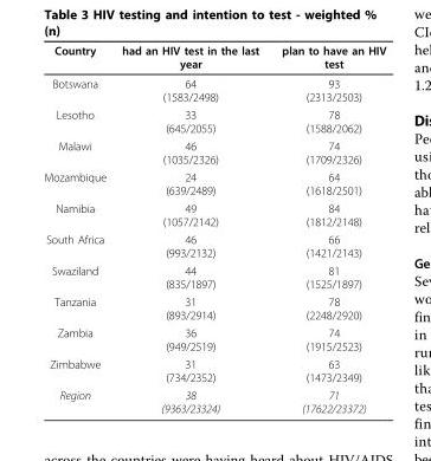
<table><thead><tr><td>Country</td><td>had an HIV test in the last year</td><td>plan to have an HIV test</td></tr></thead><tbody><tr><td>Botswana</td><td>64 (1583/2498)</td><td>93 (2313/2503)</td></tr><tr><td>Lesotho</td><td>33 (645/2055)</td><td>78 (1588/2062)</td></tr><tr><td>Malawi</td><td>46 (1035/2326)</td><td>74 (1709/2326)</td></tr><tr><td>Mozambique</td><td>24 (639/2489)</td><td>64 (1618/2501)</td></tr><tr><td>Namibia</td><td>49 (1057/2142)</td><td>84 (1812/2148)</td></tr><tr><td>South Africa</td><td>46 (993/2132)</td><td>66 (1421/2143)</td></tr><tr><td>Swaziland</td><td>44 (835/1897)</td><td>81 (1525/1897)</td></tr><tr><td>Tanzania</td><td>31 (893/2914)</td><td>78 (2248/2920)</td></tr><tr><td>Zambia</td><td>36 (949/2519)</td><td>74 (1915/2523)</td></tr><tr><td>Zimbabwe</td><td>31 (734/2352)</td><td>63 (1473/2349)</td></tr><tr><td>Region</td><td>38 (9363/23324)</td><td>71 (17622/23372)</td></tr></tbody></table>